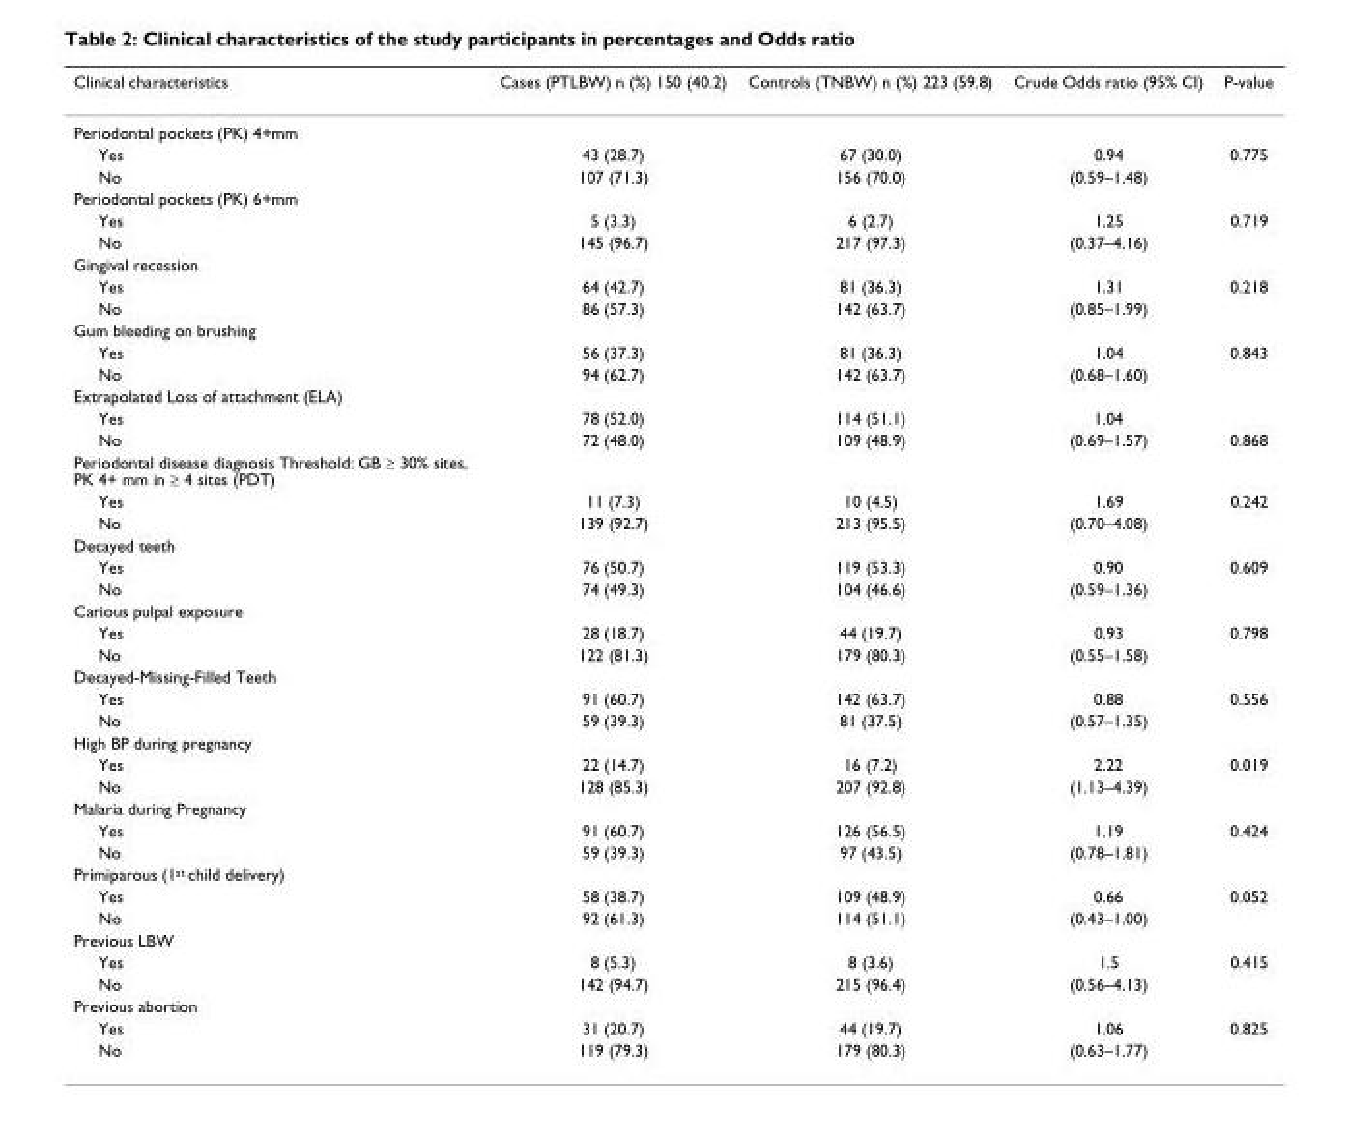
<table><thead><tr><td>Clinical characteristics</td><td>Cases (PTLBW) n (%) 150 (40.2)</td><td>Controls (TNBW) n (%) 223 (59.8)</td><td>Crude Odds ratio (95% CI)</td><td>P-value</td></tr></thead><tbody><tr><td colspan="5">Periodontal pockets (PK) 4+mm</td></tr><tr><td>Yes</td><td>43 (28.7)</td><td>67 (30.0)</td><td>0.94</td><td>0.775</td></tr><tr><td>No</td><td>107 (71.3)</td><td>156 (70.0)</td><td>(0.59–1.48)</td><td></td></tr><tr><td colspan="5">Periodontal pockets (PK) 6+mm</td></tr><tr><td>Yes</td><td>5 (3.3)</td><td>6 (2.7)</td><td>1.25</td><td>0.719</td></tr><tr><td>No</td><td>145 (96.7)</td><td>217 (97.3)</td><td>(0.37–4.16)</td><td></td></tr><tr><td colspan="5">Gingival recession</td></tr><tr><td>Yes</td><td>64 (42.7)</td><td>81 (36.3)</td><td>1.31</td><td>0.218</td></tr><tr><td>No</td><td>86 (57.3)</td><td>142 (63.7)</td><td>(0.85–1.99)</td><td></td></tr><tr><td colspan="5">Gum bleeding on brushing</td></tr><tr><td>Yes</td><td>56 (37.3)</td><td>81 (36.3)</td><td>1.04</td><td>0.843</td></tr><tr><td>No</td><td>94 (62.7)</td><td>142 (63.7)</td><td>(0.68–1.60)</td><td></td></tr><tr><td colspan="5">Extrapolated Loss of attachment (ELA)</td></tr><tr><td>Yes</td><td>78 (52.0)</td><td>114 (51.1)</td><td>1.04</td><td></td></tr><tr><td>No</td><td>72 (48.0)</td><td>109 (48.9)</td><td>(0.69–1.57)</td><td>0.868</td></tr><tr><td colspan="5">Periodontal disease diagnosis Threshold: GB ≥ 30% sites, PK 4+ mm in ≥ 4 sites (PDT)</td></tr><tr><td>Yes</td><td>11 (7.3)</td><td>10 (4.5)</td><td>1.69</td><td>0.242</td></tr><tr><td>No</td><td>139 (92.7)</td><td>213 (95.5)</td><td>(0.70–4.08)</td><td></td></tr><tr><td colspan="5">Decayed teeth</td></tr><tr><td>Yes</td><td>76 (50.7)</td><td>119 (53.3)</td><td>0.90</td><td>0.609</td></tr><tr><td>No</td><td>74 (49.3)</td><td>104 (46.6)</td><td>(0.59–1.36)</td><td></td></tr><tr><td colspan="5">Carious pulpal exposure</td></tr><tr><td>Yes</td><td>28 (18.7)</td><td>44 (19.7)</td><td>0.93</td><td>0.798</td></tr><tr><td>No</td><td>122 (81.3)</td><td>179 (80.3)</td><td>(0.55–1.58)</td><td></td></tr><tr><td colspan="5">Decayed-Missing-Filled Teeth</td></tr><tr><td>Yes</td><td>91 (60.7)</td><td>142 (63.7)</td><td>0.88</td><td>0.556</td></tr><tr><td>No</td><td>59 (39.3)</td><td>81 (37.5)</td><td>(0.57–1.35)</td><td></td></tr><tr><td colspan="5">High BP during pregnancy</td></tr><tr><td>Yes</td><td>22 (14.7)</td><td>16 (7.2)</td><td>2.22</td><td>0.019</td></tr><tr><td>No</td><td>128 (85.3)</td><td>207 (92.8)</td><td>(1.13–4.39)</td><td></td></tr><tr><td colspan="5">Malaria during Pregnancy</td></tr><tr><td>Yes</td><td>91 (60.7)</td><td>126 (56.5)</td><td>1.19</td><td>0.424</td></tr><tr><td>No</td><td>59 (39.3)</td><td>97 (43.5)</td><td>(0.78–1.81)</td><td></td></tr><tr><td colspan="5">Primiparous (1<sup>st</sup> child delivery)</td></tr><tr><td>Yes</td><td>58 (38.7)</td><td>109 (48.9)</td><td>0.66</td><td>0.052</td></tr><tr><td>No</td><td>92 (61.3)</td><td>114 (51.1)</td><td>(0.43–1.00)</td><td></td></tr><tr><td colspan="5">Previous LBW</td></tr><tr><td>Yes</td><td>8 (5.3)</td><td>8 (3.6)</td><td>1.5</td><td>0.415</td></tr><tr><td>No</td><td>142 (94.7)</td><td>215 (96.4)</td><td>(0.56–4.13)</td><td></td></tr><tr><td colspan="5">Previous abortion</td></tr><tr><td>Yes</td><td>31 (20.7)</td><td>44 (19.7)</td><td>1.06</td><td>0.825</td></tr><tr><td>No</td><td>119 (79.3)</td><td>179 (80.3)</td><td>(0.63–1.77)</td><td></td></tr></tbody></table>